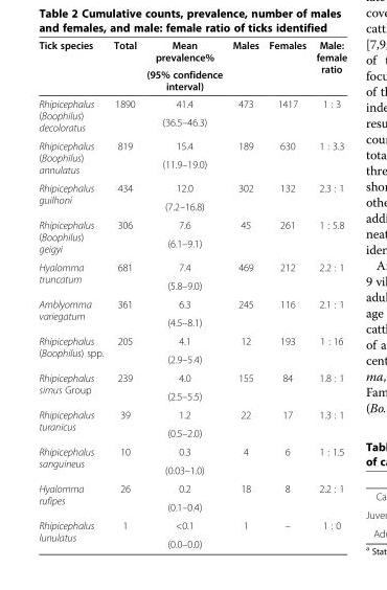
<table><thead><tr><td rowspan="2">Tick species</td><td rowspan="2">Total</td><td rowspan="2">Mean prevalence% (95% confidence interval)</td><td rowspan="2">Males</td><td rowspan="2">Females</td><td rowspan="2">Male: female ratio</td></tr><tr></tr></thead><tbody><tr><td rowspan="2">Rhipicephalus (Boophilus) decoloratus</td><td rowspan="2">1890</td><td>41.4</td><td rowspan="2">473</td><td rowspan="2">1417</td><td rowspan="2">1 : 3</td></tr><tr><td>(36.5–46.3)</td></tr><tr><td rowspan="2">Rhipicephalus (Boophilus) annulatus</td><td rowspan="2">819</td><td>15.4</td><td rowspan="2">189</td><td rowspan="2">630</td><td rowspan="2">1 : 3.3</td></tr><tr><td>(11.9–19.0)</td></tr><tr><td rowspan="2">Rhipicephalus guilhoni</td><td rowspan="2">434</td><td>12.0</td><td rowspan="2">302</td><td rowspan="2">132</td><td rowspan="2">2.3 : 1</td></tr><tr><td>(7.2–16.8)</td></tr><tr><td rowspan="2">Rhipicephalus (Boophilus) geigyi</td><td rowspan="2">306</td><td>7.6</td><td rowspan="2">45</td><td rowspan="2">261</td><td rowspan="2">1 : 5.8</td></tr><tr><td>(6.1–9.1)</td></tr><tr><td rowspan="2">Hyalomma truncatum</td><td rowspan="2">681</td><td>7.4</td><td rowspan="2">469</td><td rowspan="2">212</td><td rowspan="2">2.2 : 1</td></tr><tr><td>(5.8–9.0)</td></tr><tr><td rowspan="2">Amblyomma variegatum</td><td rowspan="2">361</td><td>6.3</td><td rowspan="2">245</td><td rowspan="2">116</td><td rowspan="2">2.1 : 1</td></tr><tr><td>(4.5–8.1)</td></tr><tr><td rowspan="2">Rhipicephalus (Boophilus) spp.</td><td rowspan="2">205</td><td>4.1</td><td rowspan="2">12</td><td rowspan="2">193</td><td rowspan="2">1 : 16</td></tr><tr><td>(2.9–5.4)</td></tr><tr><td rowspan="2">Rhipicephalus simus Group</td><td rowspan="2">239</td><td>4.0</td><td rowspan="2">155</td><td rowspan="2">84</td><td rowspan="2">1.8 : 1</td></tr><tr><td>(2.5–5.5)</td></tr><tr><td rowspan="2">Rhipicephalus turanicus</td><td rowspan="2">39</td><td>1.2</td><td rowspan="2">22</td><td rowspan="2">17</td><td rowspan="2">1.3 : 1</td></tr><tr><td>(0.5–2.0)</td></tr><tr><td rowspan="2">Rhipicephalus sanguineus</td><td rowspan="2">10</td><td>0.3</td><td rowspan="2">4</td><td rowspan="2">6</td><td rowspan="2">1 : 1.5</td></tr><tr><td>(0.03–1.0)</td></tr><tr><td rowspan="2">Hyalomma rufipes</td><td rowspan="2">26</td><td>0.2</td><td rowspan="2">18</td><td rowspan="2">8</td><td rowspan="2">2.2 : 1</td></tr><tr><td>(0.1–0.4)</td></tr><tr><td rowspan="2">Rhipicephalus lunulatus</td><td rowspan="2">1</td><td>&lt;0.1</td><td rowspan="2">1</td><td rowspan="2">–</td><td rowspan="2">1 : 0</td></tr><tr><td>(0.0–0.0)</td></tr></tbody></table>